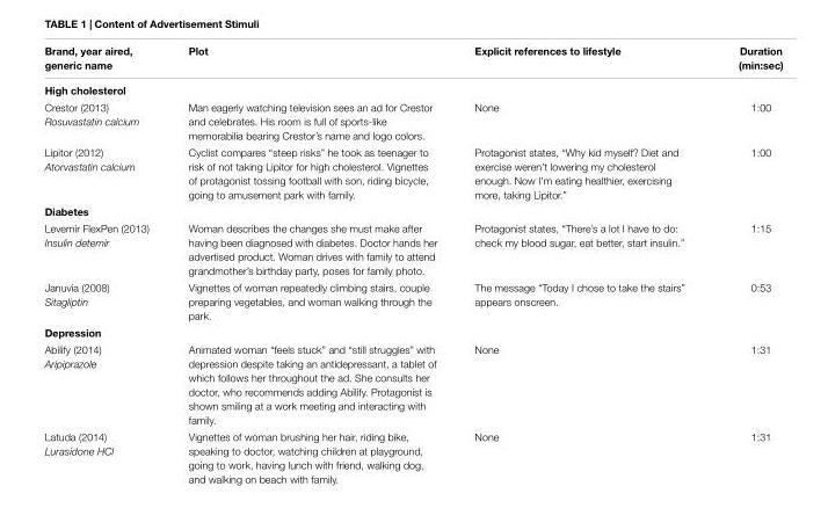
<table><thead><tr><td>Brand, year aired, generic name</td><td>Plot</td><td>Explicit references to lifestyle</td><td>Duration (min:sec)</td></tr></thead><tbody><tr><td colspan="4">High cholesterol</td></tr><tr><td>Crestor (2013) Rosuvastatin calcium</td><td>Man eagerly watching television sees an ad for Crestor and celebrates. His room is full of sports-like memorabilia bearing Crestor’s name and logo colors.</td><td>None</td><td>1:00</td></tr><tr><td>Lipitor (2012) Atorvastatin calcium</td><td>Cyclist compares “steep risks” he took as teenager to risk of not taking Lipitor for high cholesterol. Vignettes of protagonist tossing football with son, riding bicycle, going to amusement park with family.</td><td>Protagonist states, “Why kid myself? Diet and exercise weren’t lowering my cholesterol enough. Now I’m eating healthier, exercising more, taking Lipitor.”</td><td>1:00</td></tr><tr><td colspan="4">Diabetes</td></tr><tr><td>Levemir FlexPen (2013) Insulin detemir</td><td>Woman describes the changes she must make after having been diagnosed with diabetes. Doctor hands her advertised product. Woman drives with family to attend grandmother’s birthday party, poses for family photo.</td><td>Protagonist states, “There’s a lot I have to do: check my blood sugar, eat better, start insulin.”</td><td>1:15</td></tr><tr><td>Januvia (2008) Sitagliptin</td><td>Vignettes of woman repeatedly climbing stairs, couple preparing vegetables, and woman walking through the park.</td><td>The message “Today I chose to take the stairs” appears onscreen.</td><td>0:53</td></tr><tr><td colspan="4">Depression</td></tr><tr><td>Abilify (2014) Aripiprazole</td><td>Animated woman “feels stuck” and “still struggles” with depression despite taking an antidepressant, a tablet of which follows her throughout the ad. She consults her doctor, who recommends adding Abilify. Protagonist is shown smiling at a work meeting and interacting with family.</td><td>None</td><td>1:31</td></tr><tr><td>Latuda (2014) Lurasidone HCl</td><td>Vignettes of woman brushing her hair, riding bike, speaking to doctor, watching children at playground, going to work, having lunch with friend, walking dog, and walking on beach with family.</td><td>None</td><td>1:31</td></tr></tbody></table>